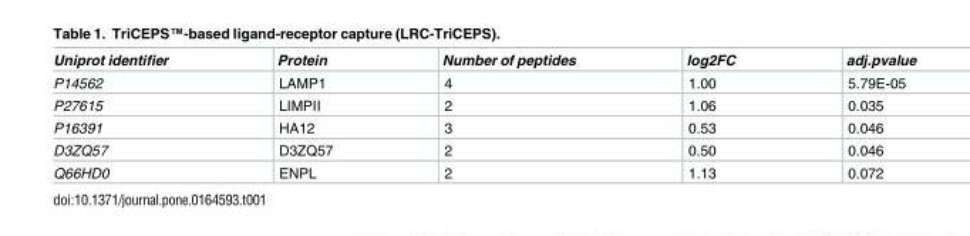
<table><thead><tr><td>Uniprot identifier</td><td>Protein</td><td>Number of peptides</td><td>log2FC</td><td>adj.pvalue</td></tr></thead><tbody><tr><td>P14562</td><td>LAMP1</td><td>4</td><td>1.00</td><td>5.79E-05</td></tr><tr><td>P27615</td><td>LIMPII</td><td>2</td><td>1.06</td><td>0.035</td></tr><tr><td>P16391</td><td>HA12</td><td>3</td><td>0.53</td><td>0.046</td></tr><tr><td>D3ZQ57</td><td>D3ZQ57</td><td>2</td><td>0.50</td><td>0.046</td></tr><tr><td>Q66HD0</td><td>ENPL</td><td>2</td><td>1.13</td><td>0.072</td></tr></tbody></table>